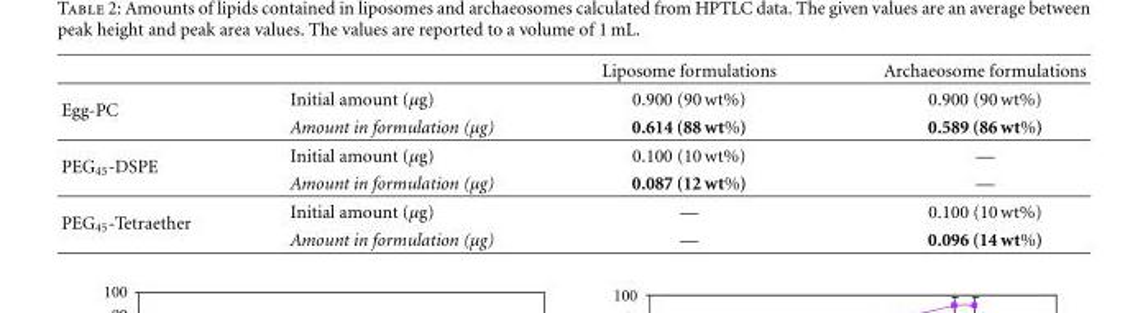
<table><thead><tr><td></td><td></td><td>Liposome formulations</td><td>Archaeosome formulations</td></tr></thead><tbody><tr><td rowspan="2">Egg-PC</td><td>Initial amount (μg)</td><td>0.900 (90 wt%)</td><td>0.900 (90 wt%)</td></tr><tr><td>Amount in formulation (μg)</td><td>0.614 (88 wt%)</td><td>0.589 (86 wt%)</td></tr><tr><td rowspan="2">PEG<sub>45</sub>-DSPE</td><td>Initial amount (μg)</td><td>0.100 (10 wt%)</td><td>—</td></tr><tr><td>Amount in formulation (μg)</td><td>0.087 (12 wt%)</td><td>—</td></tr><tr><td rowspan="2">PEG<sub>45</sub>-Tetraether</td><td>Initial amount (μg)</td><td>—</td><td>0.100 (10 wt%)</td></tr><tr><td>Amount in formulation (μg)</td><td>—</td><td>0.096 (14 wt%)</td></tr></tbody></table>